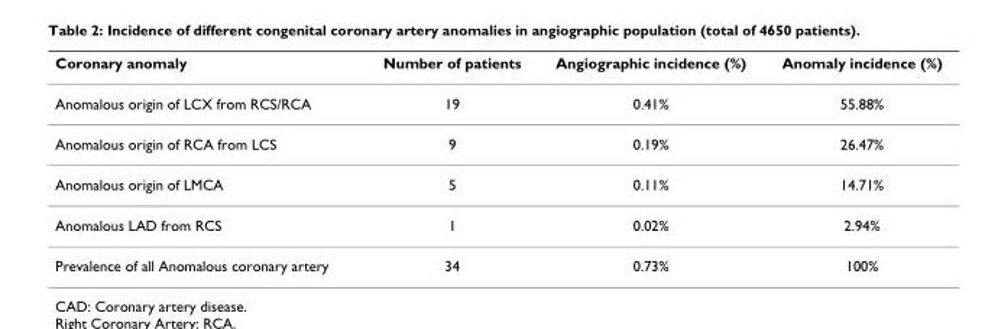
<table><thead><tr><td>Coronary anomaly</td><td>Number of patients</td><td>Angiographic incidence (%)</td><td>Anomaly incidence (%)</td></tr></thead><tbody><tr><td>Anomalous origin of LCX from RCS/RCA</td><td>19</td><td>0.41%</td><td>55.88%</td></tr><tr><td>Anomalous origin of RCA from LCS</td><td>9</td><td>0.19%</td><td>26.47%</td></tr><tr><td>Anomalous origin of LMCA</td><td>5</td><td>0.11%</td><td>14.71%</td></tr><tr><td>Anomalous LAD from RCS</td><td>1</td><td>0.02%</td><td>2.94%</td></tr><tr><td>Prevalence of all Anomalous coronary artery</td><td>34</td><td>0.73%</td><td>100%</td></tr></tbody></table>